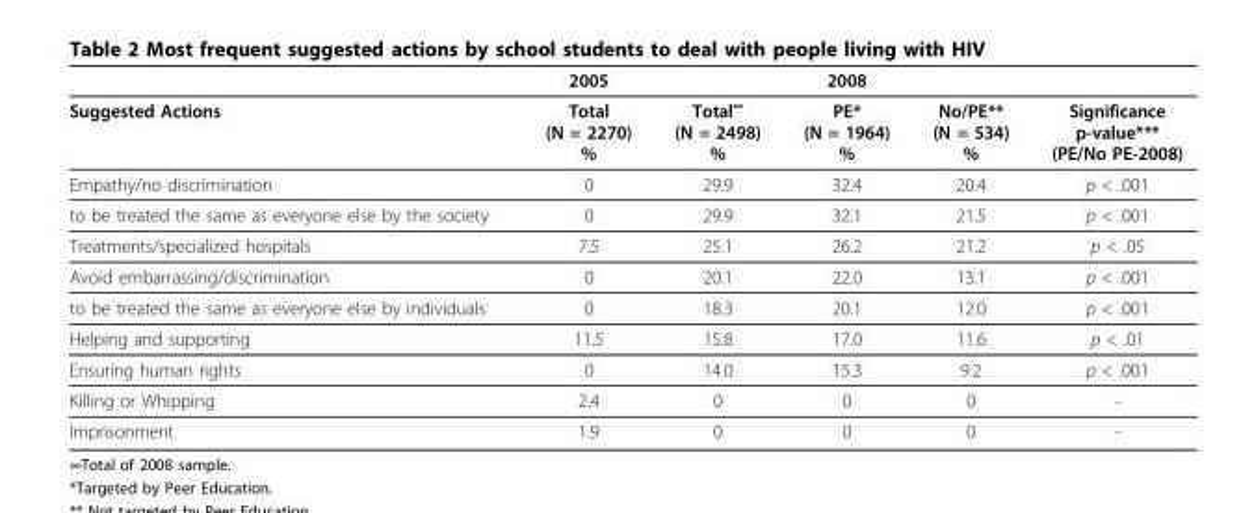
<table><thead><tr><td></td><td>2005</td><td></td><td>2008</td><td></td><td></td></tr></thead><tbody><tr><td>Suggested Actions</td><td>Total (N = 2270) %</td><td>Total<sup>∞</sup> (N = 2498) %</td><td>PE* (N = 1964) %</td><td>No/PE** (N = 534) %</td><td>Significance p-value*** (PE/No PE-2008)</td></tr><tr><td>Empathy/no discrimination</td><td>0</td><td>29.9</td><td>32.4</td><td>20.4</td><td>p &lt; .001</td></tr><tr><td>to be treated the same as everyone else by the society</td><td>0</td><td>29.9</td><td>32.1</td><td>21.5</td><td>p &lt; .001</td></tr><tr><td>Treatments/specialized hospitals</td><td>7.5</td><td>25.1</td><td>26.2</td><td>21.2</td><td>p &lt; .05</td></tr><tr><td>Avoid embarrassing/discrimination</td><td>0</td><td>20.1</td><td>22.0</td><td>13.1</td><td>p &lt; .001</td></tr><tr><td>to be treated the same as everyone else by individuals</td><td>0</td><td>18.3</td><td>20.1</td><td>12.0</td><td>p &lt; .001</td></tr><tr><td>Helping and supporting</td><td>11.5</td><td>15.8</td><td>17.0</td><td>11.6</td><td>p &lt; .01</td></tr><tr><td>Ensuring human rights</td><td>0</td><td>14.0</td><td>15.3</td><td>9.2</td><td>p &lt; .001</td></tr><tr><td>Killing or Whipping</td><td>2.4</td><td>0</td><td>0</td><td>0</td><td>-</td></tr><tr><td>Imprisonment</td><td>1.9</td><td>0</td><td>0</td><td>0</td><td>-</td></tr></tbody></table>